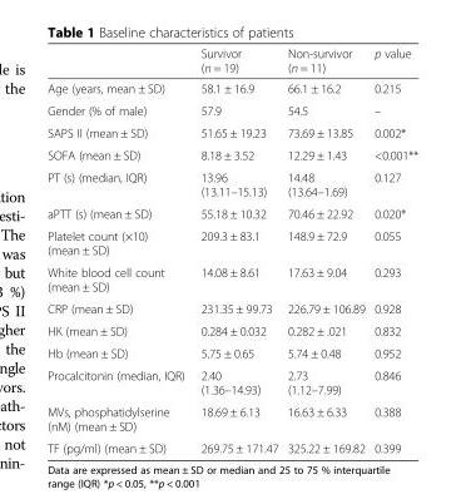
<table><thead><tr><td></td><td>Survivor (n = 19)</td><td>Non-survivor (n = 11)</td><td>p value</td></tr></thead><tbody><tr><td>Age (years, mean ± SD)</td><td>58.1 ± 16.9</td><td>66.1 ± 16.2</td><td>0.215</td></tr><tr><td>Gender (% of male)</td><td>57.9</td><td>54.5</td><td>–</td></tr><tr><td>SAPS II (mean ± SD)</td><td>51.65 ± 19.23</td><td>73.69 ± 13.85</td><td>0.002*</td></tr><tr><td>SOFA (mean ± SD)</td><td>8.18 ± 3.52</td><td>12.29 ± 1.43</td><td>&lt;0.001**</td></tr><tr><td>PT (s) (median, IQR)</td><td>13.96 (13.11–15.13)</td><td>14.48 (13.64–1.69)</td><td>0.127</td></tr><tr><td>aPTT (s) (mean ± SD)</td><td>55.18 ± 10.32</td><td>70.46 ± 22.92</td><td>0.020*</td></tr><tr><td>Platelet count (×10) (mean ± SD)</td><td>209.3 ± 83.1</td><td>148.9 ± 72.9</td><td>0.055</td></tr><tr><td>White blood cell count (mean ± SD)</td><td>14.08 ± 8.61</td><td>17.63 ± 9.04</td><td>0.293</td></tr><tr><td>CRP (mean ± SD)</td><td>231.35 ± 99.73</td><td>226.79 ± 106.89</td><td>0.928</td></tr><tr><td>HK (mean ± SD)</td><td>0.284 ± 0.032</td><td>0.282 ± .021</td><td>0.832</td></tr><tr><td>Hb (mean ± SD)</td><td>5.75 ± 0.65</td><td>5.74 ± 0.48</td><td>0.952</td></tr><tr><td>Procalcitonin (median, IQR)</td><td>2.40 (1.36–14.93)</td><td>2.73 (1.12–7.99)</td><td>0.846</td></tr><tr><td>MVs, phosphatidylserine (nM) (mean ± SD)</td><td>18.69 ± 6.13</td><td>16.63 ± 6.33</td><td>0.388</td></tr><tr><td>TF (pg/ml) (mean ± SD)</td><td>269.75 ± 171.47</td><td>325.22 ± 169.82</td><td>0.399</td></tr></tbody></table>